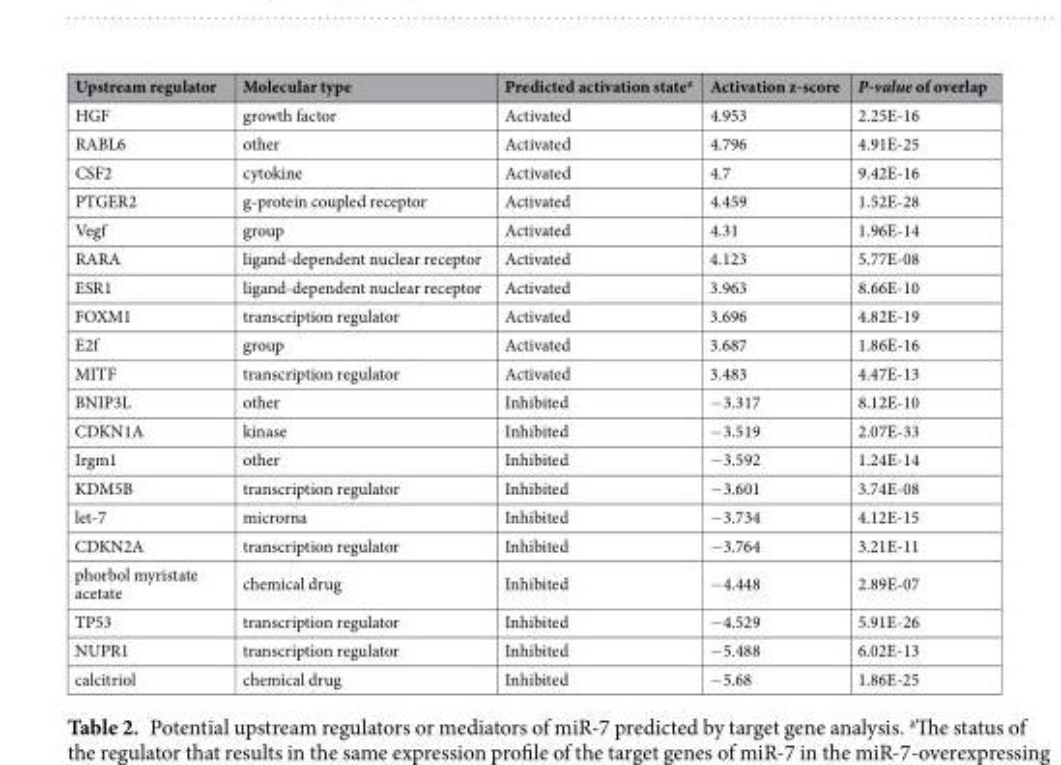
<table><thead><tr><td>Upstream regulator</td><td>Molecular type</td><td>Predicted activation state<sup>a</sup></td><td>Activation z-score</td><td>P-value of overlap</td></tr></thead><tbody><tr><td>HGF</td><td>growth factor</td><td>Activated</td><td>4.953</td><td>2.25E-16</td></tr><tr><td>RABL6</td><td>other</td><td>Activated</td><td>4.796</td><td>4.91E-25</td></tr><tr><td>CSF2</td><td>cytokine</td><td>Activated</td><td>4.7</td><td>9.42E-16</td></tr><tr><td>PTGER2</td><td>g-protein coupled receptor</td><td>Activated</td><td>4.459</td><td>1.52E-28</td></tr><tr><td>Vegf</td><td>group</td><td>Activated</td><td>4.31</td><td>1.96E-14</td></tr><tr><td>RARA</td><td>ligand-dependent nuclear receptor</td><td>Activated</td><td>4.123</td><td>5.77E-08</td></tr><tr><td>ESR1</td><td>ligand-dependent nuclear receptor</td><td>Activated</td><td>3.963</td><td>8.66E-10</td></tr><tr><td>FOXM1</td><td>transcription regulator</td><td>Activated</td><td>3.696</td><td>4.82E-19</td></tr><tr><td>E2f</td><td>group</td><td>Activated</td><td>3.687</td><td>1.86E-16</td></tr><tr><td>MITF</td><td>transcription regulator</td><td>Activated</td><td>3.483</td><td>4.47E-13</td></tr><tr><td>BNIP3L</td><td>other</td><td>Inhibited</td><td>−3.317</td><td>8.12E-10</td></tr><tr><td>CDKN1A</td><td>kinase</td><td>Inhibited</td><td>−3.519</td><td>2.07E-33</td></tr><tr><td>Irgm1</td><td>other</td><td>Inhibited</td><td>−3.592</td><td>1.24E-14</td></tr><tr><td>KDM5B</td><td>transcription regulator</td><td>Inhibited</td><td>−3.601</td><td>3.74E-08</td></tr><tr><td>let-7</td><td>microrna</td><td>Inhibited</td><td>−3.734</td><td>4.12E-15</td></tr><tr><td>CDKN2A</td><td>transcription regulator</td><td>Inhibited</td><td>−3.764</td><td>3.21E-11</td></tr><tr><td>phorbol myristate acetate</td><td>chemical drug</td><td>Inhibited</td><td>−4.448</td><td>2.89E-07</td></tr><tr><td>TP53</td><td>transcription regulator</td><td>Inhibited</td><td>−4.529</td><td>5.91E-26</td></tr><tr><td>NUPR1</td><td>transcription regulator</td><td>Inhibited</td><td>−5.488</td><td>6.02E-13</td></tr><tr><td>calcitriol</td><td>chemical drug</td><td>Inhibited</td><td>−5.68</td><td>1.86E-25</td></tr></tbody></table>